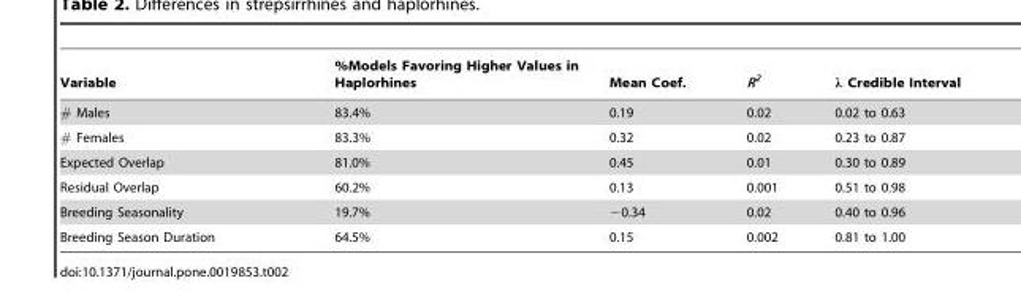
<table><thead><tr><td>Variable</td><td>%Models Favoring Higher Values in Haplorhines</td><td>Mean Coef.</td><td>R<sup>2</sup></td><td>λ Credible Interval</td></tr></thead><tbody><tr><td># Males</td><td>83.4%</td><td>0.19</td><td>0.02</td><td>0.02 to 0.63</td></tr><tr><td># Females</td><td>83.3%</td><td>0.32</td><td>0.02</td><td>0.23 to 0.87</td></tr><tr><td>Expected Overlap</td><td>81.0%</td><td>0.45</td><td>0.01</td><td>0.30 to 0.89</td></tr><tr><td>Residual Overlap</td><td>60.2%</td><td>0.13</td><td>0.001</td><td>0.51 to 0.98</td></tr><tr><td>Breeding Seasonality</td><td>19.7%</td><td>−0.34</td><td>0.02</td><td>0.40 to 0.96</td></tr><tr><td>Breeding Season Duration</td><td>64.5%</td><td>0.15</td><td>0.002</td><td>0.81 to 1.00</td></tr></tbody></table>